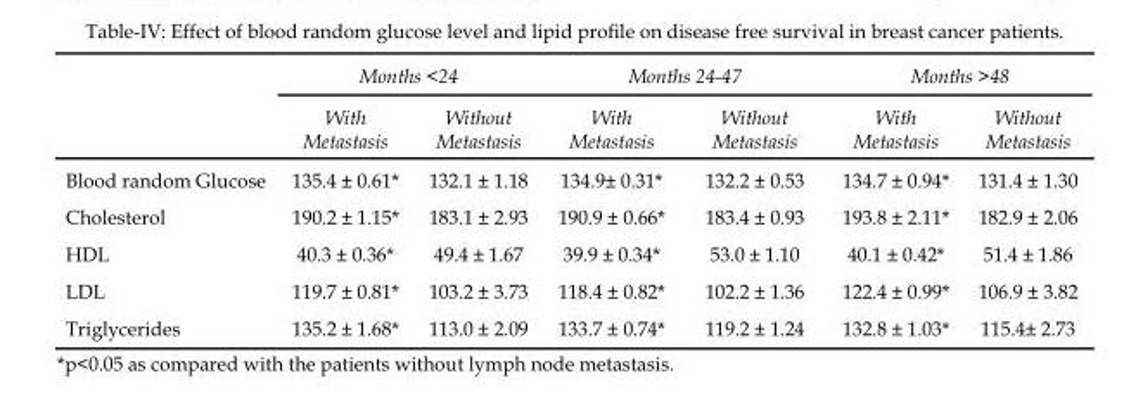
<table><thead><tr><td rowspan="2"></td><td colspan="2">Months &lt;24</td><td colspan="2">Months 24-47</td><td colspan="2">Months &gt;48</td></tr><tr><td>With Metastasis</td><td>Without Metastasis</td><td>With Metastasis</td><td>Without Metastasis</td><td>With Metastasis</td><td>Without Metastasis</td></tr></thead><tbody><tr><td>Blood random Glucose</td><td>135.4 ± 0.61*</td><td>132.1 ± 1.18</td><td>134.9± 0.31*</td><td>132.2 ± 0.53</td><td>134.7 ± 0.94*</td><td>131.4 ± 1.30</td></tr><tr><td>Cholesterol</td><td>190.2 ± 1.15*</td><td>183.1 ± 2.93</td><td>190.9 ± 0.66*</td><td>183.4 ± 0.93</td><td>193.8 ± 2.11*</td><td>182.9 ± 2.06</td></tr><tr><td>HDL</td><td>40.3 ± 0.36*</td><td>49.4 ± 1.67</td><td>39.9 ± 0.34*</td><td>53.0 ± 1.10</td><td>40.1 ± 0.42*</td><td>51.4 ± 1.86</td></tr><tr><td>LDL</td><td>119.7 ± 0.81*</td><td>103.2 ± 3.73</td><td>118.4 ± 0.82*</td><td>102.2 ± 1.36</td><td>122.4 ± 0.99*</td><td>106.9 ± 3.82</td></tr><tr><td>Triglycerides</td><td>135.2 ± 1.68*</td><td>113.0 ± 2.09</td><td>133.7 ± 0.74*</td><td>119.2 ± 1.24</td><td>132.8 ± 1.03*</td><td>115.4± 2.73</td></tr></tbody></table>